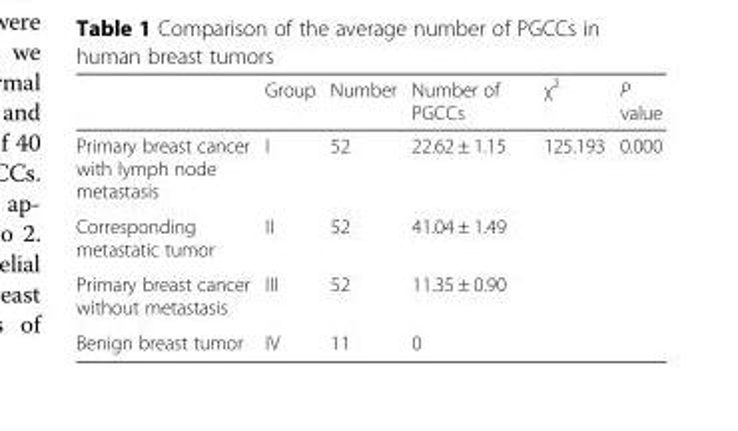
<table><thead><tr><td></td><td>Group</td><td>Number</td><td>Number of PGCCs</td><td>χ<sup>2</sup></td><td>P value</td></tr></thead><tbody><tr><td>Primary breast cancer with lymph node metastasis</td><td>I</td><td>52</td><td>22.62 ± 1.15</td><td rowspan="4">125.193</td><td rowspan="4">0.000</td></tr><tr><td>Corresponding metastatic tumor</td><td>II</td><td>52</td><td>41.04 ± 1.49</td></tr><tr><td>Primary breast cancer without metastasis</td><td>III</td><td>52</td><td>11.35 ± 0.90</td></tr><tr><td>Benign breast tumor</td><td>IV</td><td>11</td><td>0</td></tr></tbody></table>